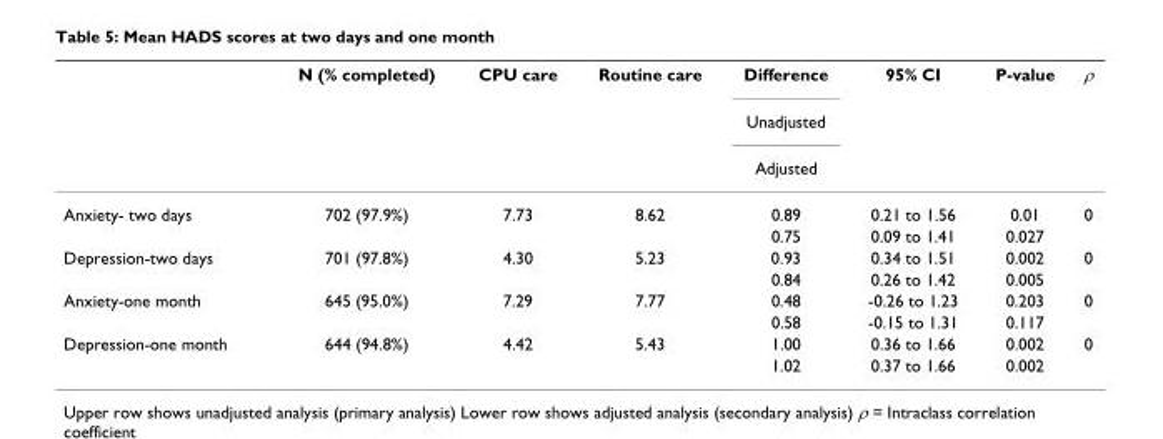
<table><thead><tr><td rowspan="3"></td><td rowspan="3">N (% completed)</td><td rowspan="3">CPU care</td><td rowspan="3">Routine care</td><td rowspan="3">Difference Unadjusted Adjusted</td><td rowspan="3">95% CI</td><td rowspan="3">P-value</td><td rowspan="3">ρ</td></tr><tr></tr><tr></tr></thead><tbody><tr><td rowspan="2">Anxiety- two days</td><td>702 (97.9%)</td><td>7.73</td><td>8.62</td><td>0.89</td><td>0.21 to 1.56</td><td>0.01</td><td>0</td></tr><tr><td></td><td></td><td></td><td>0.75</td><td>0.09 to 1.41</td><td>0.027</td><td></td></tr><tr><td rowspan="2">Depression-two days</td><td>701 (97.8%)</td><td>4.30</td><td>5.23</td><td>0.93</td><td>0.34 to 1.51</td><td>0.002</td><td>0</td></tr><tr><td></td><td></td><td></td><td>0.84</td><td>0.26 to 1.42</td><td>0.005</td><td></td></tr><tr><td rowspan="2">Anxiety-one month</td><td>645 (95.0%)</td><td>7.29</td><td>7.77</td><td>0.48</td><td>-0.26 to 1.23</td><td>0.203</td><td>0</td></tr><tr><td></td><td></td><td></td><td>0.58</td><td>-0.15 to 1.31</td><td>0.117</td><td></td></tr><tr><td rowspan="2">Depression-one month</td><td>644 (94.8%)</td><td>4.42</td><td>5.43</td><td>1.00</td><td>0.36 to 1.66</td><td>0.002</td><td>0</td></tr><tr><td></td><td></td><td></td><td>1.02</td><td>0.37 to 1.66</td><td>0.002</td><td></td></tr></tbody></table>